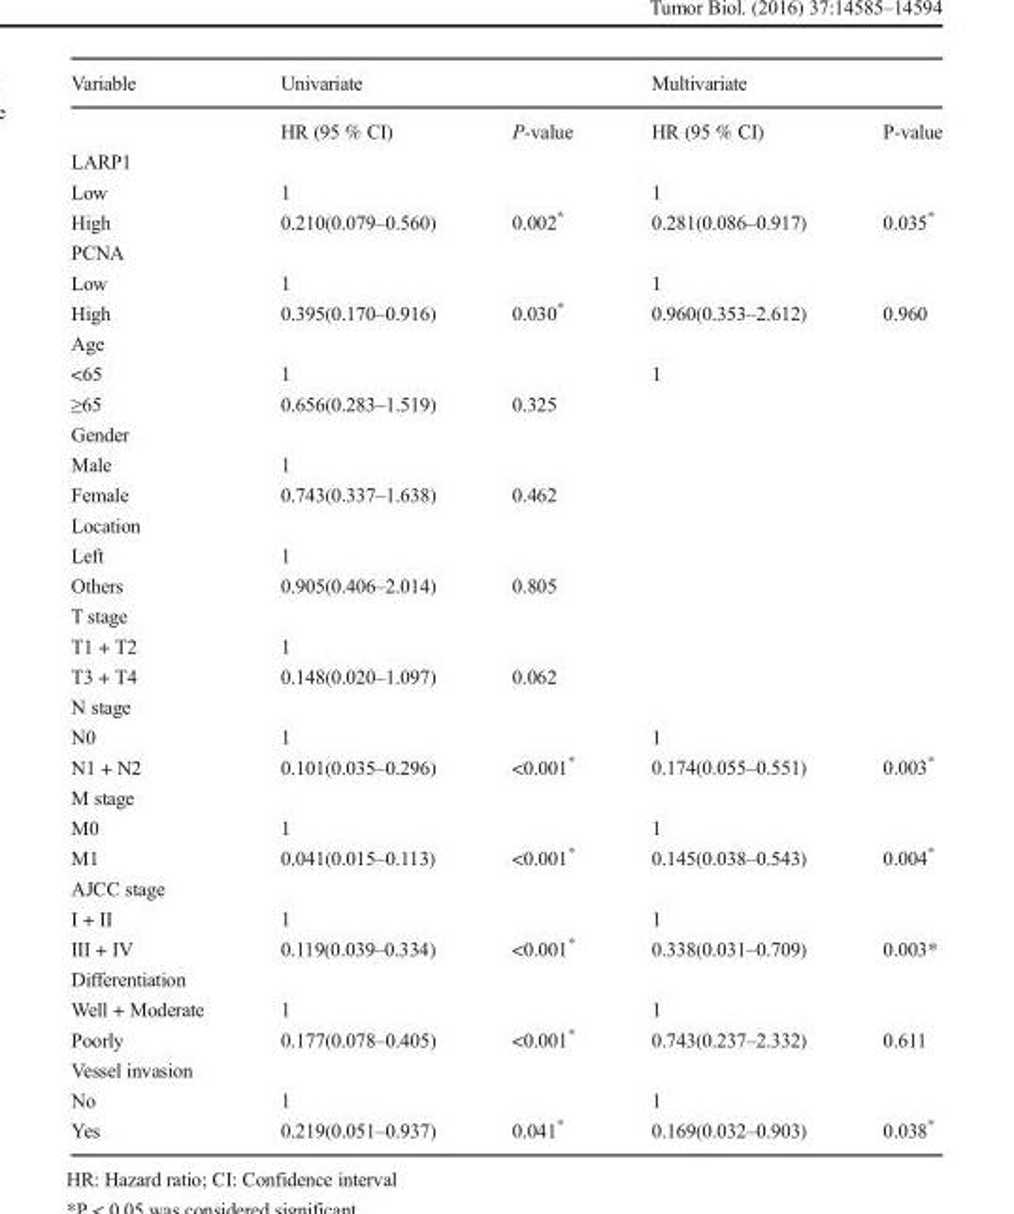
<table><thead><tr><td rowspan="2">Variable</td><td colspan="2">Univariate</td><td colspan="2">Multivariate</td></tr><tr><td>HR (95 % CI)</td><td>P-value</td><td>HR (95 % CI)</td><td>P-value</td></tr></thead><tbody><tr><td colspan="5">LARP1</td></tr><tr><td>Low</td><td>1</td><td></td><td>1</td><td></td></tr><tr><td>High</td><td>0.210(0.079–0.560)</td><td>0.002*</td><td>0.281(0.086–0.917)</td><td>0.035*</td></tr><tr><td colspan="5">PCNA</td></tr><tr><td>Low</td><td>1</td><td></td><td>1</td><td></td></tr><tr><td>High</td><td>0.395(0.170–0.916)</td><td>0.030*</td><td>0.960(0.353–2.612)</td><td>0.960</td></tr><tr><td colspan="5">Age</td></tr><tr><td>&lt;65</td><td>1</td><td></td><td>1</td><td></td></tr><tr><td>≥65</td><td>0.656(0.283–1.519)</td><td>0.325</td><td></td><td></td></tr><tr><td colspan="5">Gender</td></tr><tr><td>Male</td><td>1</td><td></td><td></td><td></td></tr><tr><td>Female</td><td>0.743(0.337–1.638)</td><td>0.462</td><td></td><td></td></tr><tr><td colspan="5">Location</td></tr><tr><td>Left</td><td>1</td><td></td><td></td><td></td></tr><tr><td>Others</td><td>0.905(0.406–2.014)</td><td>0.805</td><td></td><td></td></tr><tr><td colspan="5">T stage</td></tr><tr><td>T1 + T2</td><td>1</td><td></td><td></td><td></td></tr><tr><td>T3 + T4</td><td>0.148(0.020–1.097)</td><td>0.062</td><td></td><td></td></tr><tr><td colspan="5">N stage</td></tr><tr><td>N0</td><td>1</td><td></td><td>1</td><td></td></tr><tr><td>N1 + N2</td><td>0.101(0.035–0.296)</td><td>&lt;0.001*</td><td>0.174(0.055–0.551)</td><td>0.003*</td></tr><tr><td colspan="5">M stage</td></tr><tr><td>M0</td><td>1</td><td></td><td>1</td><td></td></tr><tr><td>M1</td><td>0.041(0.015–0.113)</td><td>&lt;0.001*</td><td>0.145(0.038–0.543)</td><td>0.004*</td></tr><tr><td colspan="5">AJCC stage</td></tr><tr><td>I + II</td><td>1</td><td></td><td>1</td><td></td></tr><tr><td>III + IV</td><td>0.119(0.039–0.334)</td><td>&lt;0.001*</td><td>0.338(0.031–0.709)</td><td>0.003*</td></tr><tr><td colspan="5">Differentiation</td></tr><tr><td>Well + Moderate</td><td>1</td><td></td><td>1</td><td></td></tr><tr><td>Poorly</td><td>0.177(0.078–0.405)</td><td>&lt;0.001*</td><td>0.743(0.237–2.332)</td><td>0.611</td></tr><tr><td colspan="5">Vessel invasion</td></tr><tr><td>No</td><td>1</td><td></td><td>1</td><td></td></tr><tr><td>Yes</td><td>0.219(0.051–0.937)</td><td>0.041*</td><td>0.169(0.032–0.903)</td><td>0.038*</td></tr></tbody></table>